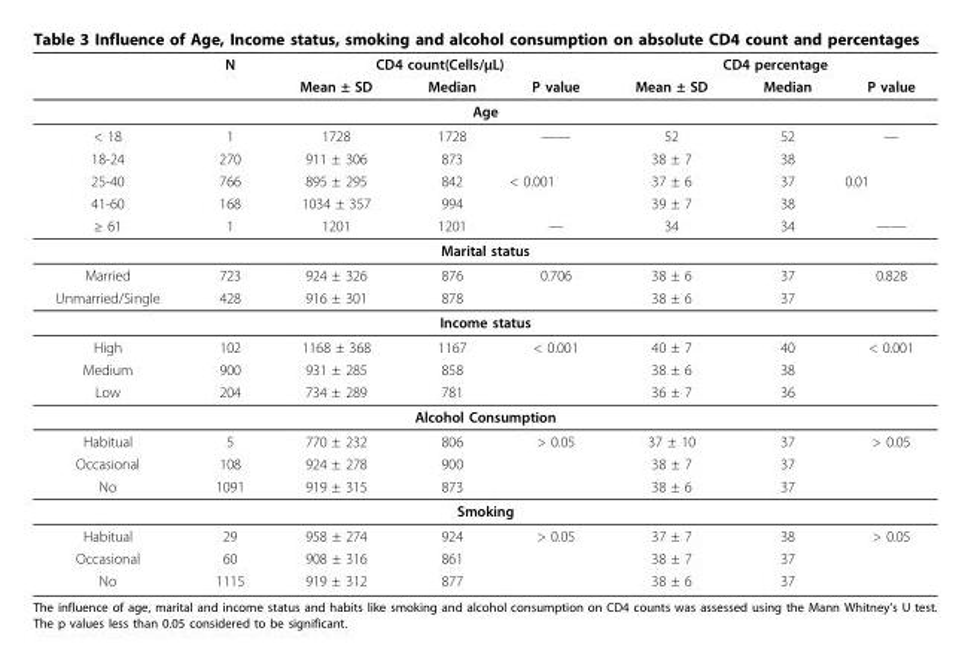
<table><thead><tr><td rowspan="2"></td><td rowspan="2">N</td><td colspan="3">CD4 count(Cells/μL)</td><td colspan="3">CD4 percentage</td></tr><tr><td>Mean ± SD</td><td>Median</td><td>P value</td><td>Mean ± SD</td><td>Median</td><td>P value</td></tr></thead><tbody><tr><td colspan="8">Age</td></tr><tr><td>&lt; 18</td><td>1</td><td>1728</td><td>1728</td><td>——</td><td>52</td><td>52</td><td>—</td></tr><tr><td>18-24</td><td>270</td><td>911 ± 306</td><td>873</td><td></td><td>38 ± 7</td><td>38</td><td></td></tr><tr><td>25-40</td><td>766</td><td>895 ± 295</td><td>842</td><td>&lt; 0.001</td><td>37 ± 6</td><td>37</td><td>0.01</td></tr><tr><td>41-60</td><td>168</td><td>1034 ± 357</td><td>994</td><td></td><td>39 ± 7</td><td>38</td><td></td></tr><tr><td>≥ 61</td><td>1</td><td>1201</td><td>1201</td><td>—</td><td>34</td><td>34</td><td>——</td></tr><tr><td colspan="8">Marital status</td></tr><tr><td>Married</td><td>723</td><td>924 ± 326</td><td>876</td><td>0.706</td><td>38 ± 6</td><td>37</td><td>0.828</td></tr><tr><td>Unmarried/Single</td><td>428</td><td>916 ± 301</td><td>878</td><td></td><td>38 ± 6</td><td>37</td><td></td></tr><tr><td colspan="8">Income status</td></tr><tr><td>High</td><td>102</td><td>1168 ± 368</td><td>1167</td><td>&lt; 0.001</td><td>40 ± 7</td><td>40</td><td>&lt; 0.001</td></tr><tr><td>Medium</td><td>900</td><td>931 ± 285</td><td>858</td><td></td><td>38 ± 6</td><td>38</td><td></td></tr><tr><td>Low</td><td>204</td><td>734 ± 289</td><td>781</td><td></td><td>36 ± 7</td><td>36</td><td></td></tr><tr><td colspan="8">Alcohol Consumption</td></tr><tr><td>Habitual</td><td>5</td><td>770 ± 232</td><td>806</td><td>&gt; 0.05</td><td>37 ± 10</td><td>37</td><td>&gt; 0.05</td></tr><tr><td>Occasional</td><td>108</td><td>924 ± 278</td><td>900</td><td></td><td>38 ± 7</td><td>37</td><td></td></tr><tr><td>No</td><td>1091</td><td>919 ± 315</td><td>873</td><td></td><td>38 ± 6</td><td>37</td><td></td></tr><tr><td colspan="8">Smoking</td></tr><tr><td>Habitual</td><td>29</td><td>958 ± 274</td><td>924</td><td>&gt; 0.05</td><td>37 ± 7</td><td>38</td><td>&gt; 0.05</td></tr><tr><td>Occasional</td><td>60</td><td>908 ± 316</td><td>861</td><td></td><td>38 ± 7</td><td>37</td><td></td></tr><tr><td>No</td><td>1115</td><td>919 ± 312</td><td>877</td><td></td><td>38 ± 6</td><td>37</td><td></td></tr></tbody></table>